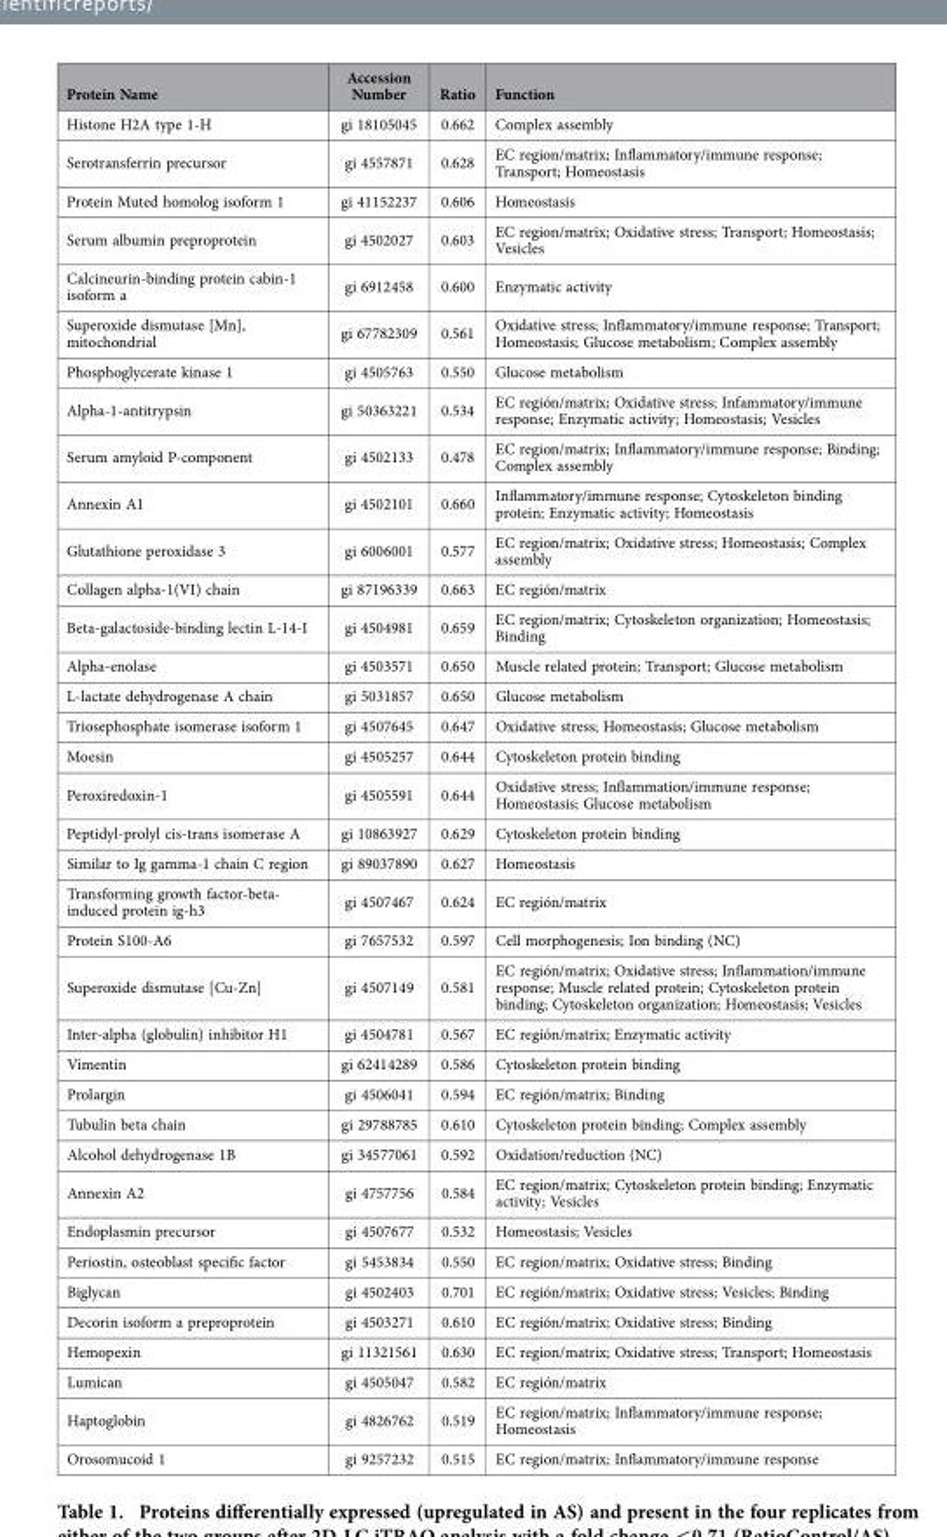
<table><thead><tr><td>Protein Name</td><td>Accession Number</td><td>Ratio</td><td>Function</td></tr></thead><tbody><tr><td>Histone H2A type 1-H</td><td>gi 18105045</td><td>0.662</td><td>Complex assembly</td></tr><tr><td>Serotransferrin precursor</td><td>gi 4557871</td><td>0.628</td><td>EC region/matrix; Inflammatory/immune response; Transport; Homeostasis</td></tr><tr><td>Protein Muted homolog isoform 1</td><td>gi 41152237</td><td>0.606</td><td>Homeostasis</td></tr><tr><td>Serum albumin preproprotein</td><td>gi 4502027</td><td>0.603</td><td>EC region/matrix; Oxidative stress; Transport; Homeostasis; Vesicles</td></tr><tr><td>Calcineurin-binding protein cabin-1 isoform a</td><td>gi 6912458</td><td>0.600</td><td>Enzymatic activity</td></tr><tr><td>Superoxide dismutase [Mn], mitochondrial</td><td>gi 67782309</td><td>0.561</td><td>Oxidative stress; Inflammatory/immune response; Transport; Homeostasis; Glucose metabolism; Complex assembly</td></tr><tr><td>Phosphoglycerate kinase 1</td><td>gi 4505763</td><td>0.550</td><td>Glucose metabolism</td></tr><tr><td>Alpha-1-antitrypsin</td><td>gi 50363221</td><td>0.534</td><td>EC región/matrix; Oxidative stress; Infammatory/immune response; Enzymatic activity; Homeostasis; Vesicles</td></tr><tr><td>Serum amyloid P-component</td><td>gi 4502133</td><td>0.478</td><td>EC region/matrix; Inflammatory/immune response; Binding; Complex assembly</td></tr><tr><td>Annexin A1</td><td>gi 4502101</td><td>0.660</td><td>Inflammatory/immune response; Cytoskeleton binding protein; Enzymatic activity; Homeostasis</td></tr><tr><td>Glutathione peroxidase 3</td><td>gi 6006001</td><td>0.577</td><td>EC region/matrix; Oxidative stress; Homeostasis; Complex assembly</td></tr><tr><td>Collagen alpha-1(VI) chain</td><td>gi 87196339</td><td>0.663</td><td>EC región/matrix</td></tr><tr><td>Beta-galactoside-binding lectin L-14-I</td><td>gi 4504981</td><td>0.659</td><td>EC region/matrix; Cytoskeleton organization; Homeostasis; Binding</td></tr><tr><td>Alpha-enolase</td><td>gi 4503571</td><td>0.650</td><td>Muscle related protein; Transport; Glucose metabolism</td></tr><tr><td>L-lactate dehydrogenase A chain</td><td>gi 5031857</td><td>0.650</td><td>Glucose metabolism</td></tr><tr><td>Triosephosphate isomerase isoform 1</td><td>gi 4507645</td><td>0.647</td><td>Oxidative stress; Homeostasis; Glucose metabolism</td></tr><tr><td>Moesin</td><td>gi 4505257</td><td>0.644</td><td>Cytoskeleton protein binding</td></tr><tr><td>Peroxiredoxin-1</td><td>gi 4505591</td><td>0.644</td><td>Oxidative stress; Inflammation/immune response; Homeostasis; Glucose metabolism</td></tr><tr><td>Peptidyl-prolyl cis-trans isomerase A</td><td>gi 10863927</td><td>0.629</td><td>Cytoskeleton protein binding</td></tr><tr><td>Similar to Ig gamma-1 chain C region</td><td>gi 89037890</td><td>0.627</td><td>Homeostasis</td></tr><tr><td>Transforming growth factor-beta- induced protein ig-h3</td><td>gi 4507467</td><td>0.624</td><td>EC región/matrix</td></tr><tr><td>Protein S100-A6</td><td>gi 7657532</td><td>0.597</td><td>Cell morphogenesis; Ion binding (NC)</td></tr><tr><td>Superoxide dismutase [Cu-Zn]</td><td>gi 4507149</td><td>0.581</td><td>EC región/matrix; Oxidative stress; Inflammation/immune response; Muscle related protein; Cytoskeleton protein binding; Cytoskeleton organization; Homeostasis; Vesicles</td></tr><tr><td>Inter-alpha (globulin) inhibitor H1</td><td>gi 4504781</td><td>0.567</td><td>EC región/matrix; Enzymatic activity</td></tr><tr><td>Vimentin</td><td>gi 62414289</td><td>0.586</td><td>Cytoskeleton protein binding</td></tr><tr><td>Prolargin</td><td>gi 4506041</td><td>0.594</td><td>EC región/matrix; Binding</td></tr><tr><td>Tubulin beta chain</td><td>gi 29788785</td><td>0.610</td><td>Cytoskeleton protein binding; Complex assembly</td></tr><tr><td>Alcohol dehydrogenase 1B</td><td>gi 34577061</td><td>0.592</td><td>Oxidation/reduction (NC)</td></tr><tr><td>Annexin A2</td><td>gi 4757756</td><td>0.584</td><td>EC region/matrix; Cytoskeleton protein binding; Enzymatic activity; Vesicles</td></tr><tr><td>Endoplasmin precursor</td><td>gi 4507677</td><td>0.532</td><td>Homeostasis; Vesicles</td></tr><tr><td>Periostin, osteoblast specific factor</td><td>gi 5453834</td><td>0.550</td><td>EC region/matrix; Oxidative stress; Binding</td></tr><tr><td>Biglycan</td><td>gi 4502403</td><td>0.701</td><td>EC región/matrix; Oxidative stress; Vesicles; Binding</td></tr><tr><td>Decorin isoform a preproprotein</td><td>gi 4503271</td><td>0.610</td><td>EC región/matrix; Oxidative stress; Binding</td></tr><tr><td>Hemopexin</td><td>gi 11321561</td><td>0.630</td><td>EC region/matrix; Oxidative stress; Transport; Homeostasis</td></tr><tr><td>Lumican</td><td>gi 4505047</td><td>0.582</td><td>EC región/matrix</td></tr><tr><td>Haptoglobin</td><td>gi 4826762</td><td>0.519</td><td>EC region/matrix; Inflammatory/immune response; Homeostasis</td></tr><tr><td>Orosomucoid 1</td><td>gi 9257232</td><td>0.515</td><td>EC region/matrix; Inflammatory/immune response</td></tr></tbody></table>